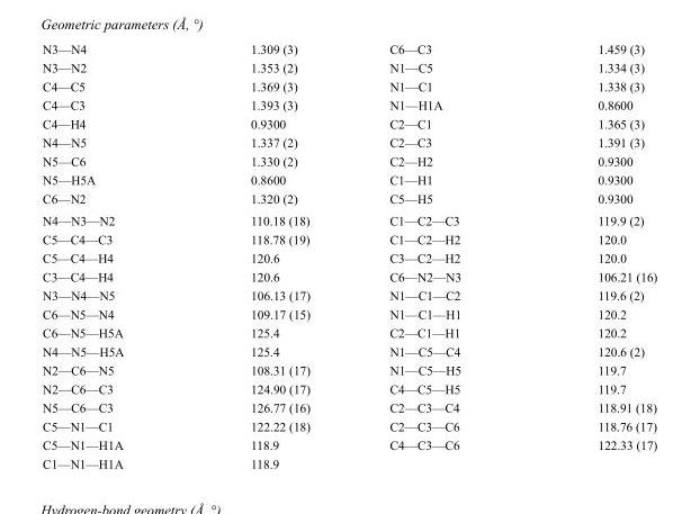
<table><tbody><tr><td>N3—N4</td><td>1.309 (3)</td><td>C6—C3</td><td>1.459 (3)</td></tr><tr><td>N3—N2</td><td>1.353 (2)</td><td>N1—C5</td><td>1.334 (3)</td></tr><tr><td>C4—C5</td><td>1.369 (3)</td><td>N1—C1</td><td>1.338 (3)</td></tr><tr><td>C4—C3</td><td>1.393 (3)</td><td>N1—H1A</td><td>0.8600</td></tr><tr><td>C4—H4</td><td>0.9300</td><td>C2—C1</td><td>1.365 (3)</td></tr><tr><td>N4—N5</td><td>1.337 (2)</td><td>C2—C3</td><td>1.391 (3)</td></tr><tr><td>N5—C6</td><td>1.330 (2)</td><td>C2—H2</td><td>0.9300</td></tr><tr><td>N5—H5A</td><td>0.8600</td><td>C1—H1</td><td>0.9300</td></tr><tr><td>C6—N2</td><td>1.320 (2)</td><td>C5—H5</td><td>0.9300</td></tr><tr><td>N4—N3—N2</td><td>110.18 (18)</td><td>C1—C2—C3</td><td>119.9 (2)</td></tr><tr><td>C5—C4—C3</td><td>118.78 (19)</td><td>C1—C2—H2</td><td>120.0</td></tr><tr><td>C5—C4—H4</td><td>120.6</td><td>C3—C2—H2</td><td>120.0</td></tr><tr><td>C3—C4—H4</td><td>120.6</td><td>C6—N2—N3</td><td>106.21 (16)</td></tr><tr><td>N3—N4—N5</td><td>106.13 (17)</td><td>N1—C1—C2</td><td>119.6 (2)</td></tr><tr><td>C6—N5—N4</td><td>109.17 (15)</td><td>N1—C1—H1</td><td>120.2</td></tr><tr><td>C6—N5—H5A</td><td>125.4</td><td>C2—C1—H1</td><td>120.2</td></tr><tr><td>N4—N5—H5A</td><td>125.4</td><td>N1—C5—C4</td><td>120.6 (2)</td></tr><tr><td>N2—C6—N5</td><td>108.31 (17)</td><td>N1—C5—H5</td><td>119.7</td></tr><tr><td>N2—C6—C3</td><td>124.90 (17)</td><td>C4—C5—H5</td><td>119.7</td></tr><tr><td>N5—C6—C3</td><td>126.77 (16)</td><td>C2—C3—C4</td><td>118.91 (18)</td></tr><tr><td>C5—N1—C1</td><td>122.22 (18)</td><td>C2—C3—C6</td><td>118.76 (17)</td></tr><tr><td>C5—N1—H1A</td><td>118.9</td><td>C4—C3—C6</td><td>122.33 (17)</td></tr><tr><td>C1—N1—H1A</td><td>118.9</td><td></td><td></td></tr></tbody></table>